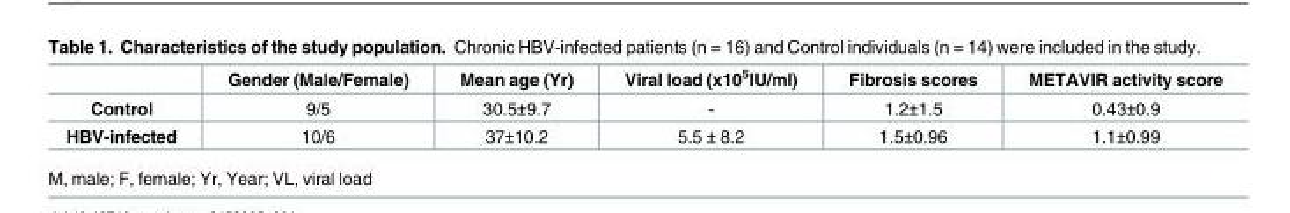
<table><thead><tr><td></td><td>Gender (Male/Female)</td><td>Mean age (Yr)</td><td>Viral load (x10<sup>5</sup>IU/ml)</td><td>Fibrosis scores</td><td>METAVIR activity score</td></tr></thead><tbody><tr><td>Control</td><td>9/5</td><td>30.5±9.7</td><td>-</td><td>1.2±1.5</td><td>0.43±0.9</td></tr><tr><td>HBV-infected</td><td>10/6</td><td>37±10.2</td><td>5.5 ± 8.2</td><td>1.5±0.96</td><td>1.1±0.99</td></tr></tbody></table>